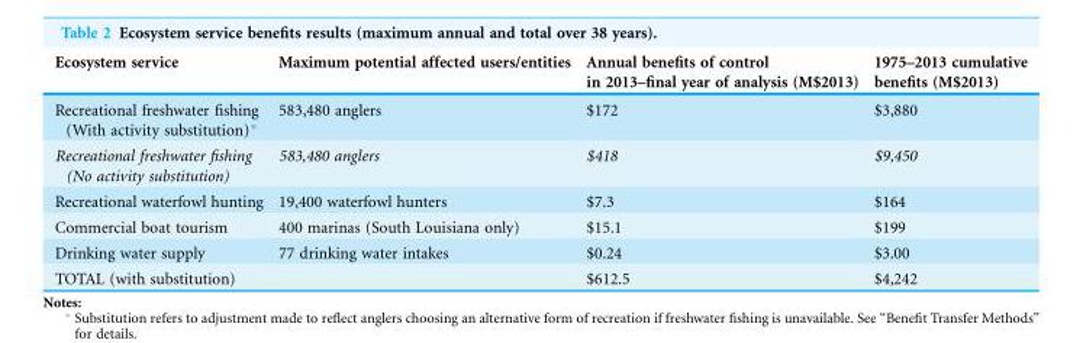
<table><thead><tr><td>Ecosystem service</td><td>Maximum potential affected users/entities</td><td>Annual benefits of control in 2013–final year of analysis (M$2013)</td><td>1975–2013 cumulative benefits (M$2013)</td></tr></thead><tbody><tr><td>Recreational freshwater fishing (With activity substitution)*</td><td>583,480 anglers</td><td>$172</td><td>$3,880</td></tr><tr><td>Recreational freshwater fishing (No activity substitution)</td><td>583,480 anglers</td><td>$418</td><td>$9,450</td></tr><tr><td>Recreational waterfowl hunting</td><td>19,400 waterfowl hunters</td><td>$7.3</td><td>$164</td></tr><tr><td>Commercial boat tourism</td><td>400 marinas (South Louisiana only)</td><td>$15.1</td><td>$199</td></tr><tr><td>Drinking water supply</td><td>77 drinking water intakes</td><td>$0.24</td><td>$3.00</td></tr><tr><td>TOTAL (with substitution)</td><td></td><td>$612.5</td><td>$4,242</td></tr></tbody></table>